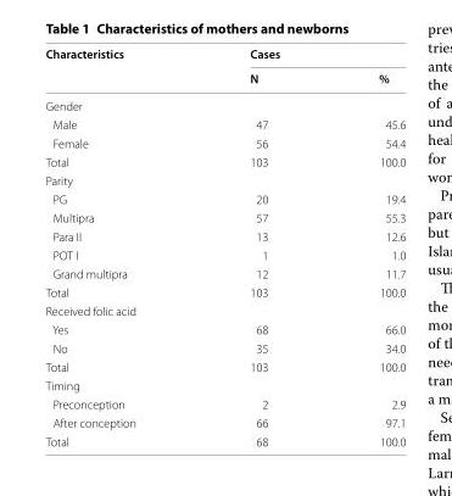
<table><thead><tr><td rowspan="2">Characteristics</td><td colspan="2">Cases</td></tr><tr><td>N</td><td>%</td></tr></thead><tbody><tr><td colspan="3">Gender</td></tr><tr><td>Male</td><td>47</td><td>45.6</td></tr><tr><td>Female</td><td>56</td><td>54.4</td></tr><tr><td>Total</td><td>103</td><td>100.0</td></tr><tr><td colspan="3">Parity</td></tr><tr><td>PG</td><td>20</td><td>19.4</td></tr><tr><td>Multipra</td><td>57</td><td>55.3</td></tr><tr><td>Para II</td><td>13</td><td>12.6</td></tr><tr><td>POT I</td><td>1</td><td>1.0</td></tr><tr><td>Grand multipra</td><td>12</td><td>11.7</td></tr><tr><td>Total</td><td>103</td><td>100.0</td></tr><tr><td colspan="3">Received folic acid</td></tr><tr><td>Yes</td><td>68</td><td>66.0</td></tr><tr><td>No</td><td>35</td><td>34.0</td></tr><tr><td>Total</td><td>103</td><td>100.0</td></tr><tr><td colspan="3">Timing</td></tr><tr><td>Preconception</td><td>2</td><td>2.9</td></tr><tr><td>After conception</td><td>66</td><td>97.1</td></tr><tr><td>Total</td><td>68</td><td>100.0</td></tr></tbody></table>